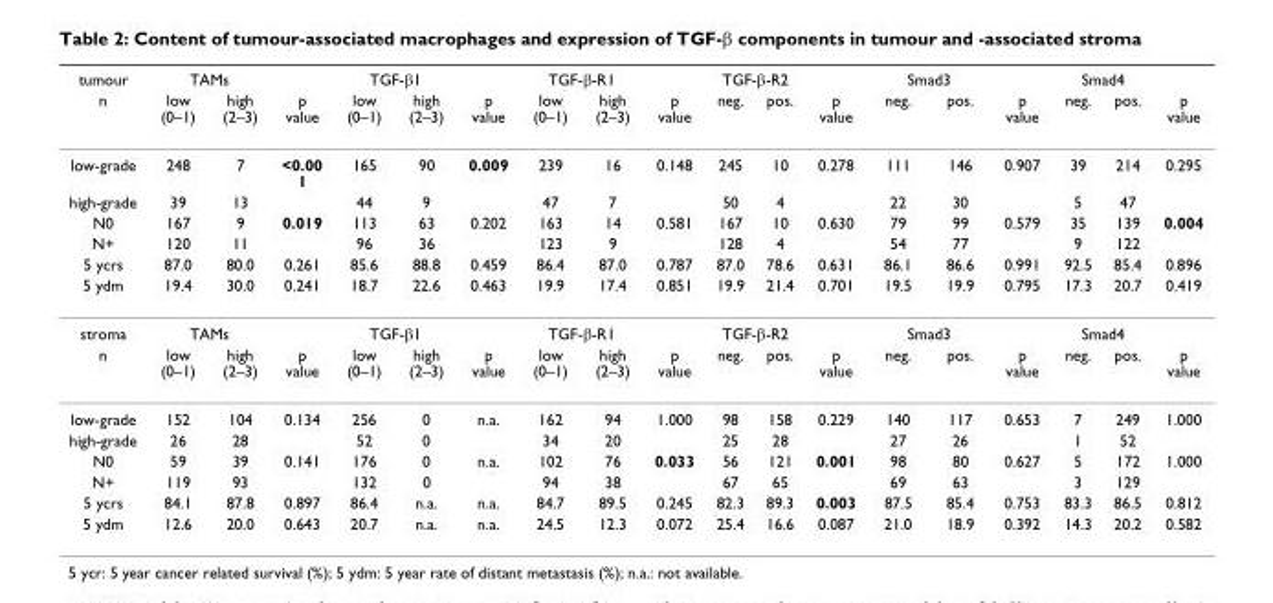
<table><thead><tr><td rowspan="2">tumour n</td><td colspan="2">TAMs</td><td rowspan="2">p value</td><td colspan="2">TGF-β1</td><td rowspan="2">p value</td><td colspan="2">TGF-β-R1</td><td rowspan="2">p value</td><td colspan="2">TGF-β-R2</td><td rowspan="2">p value</td><td colspan="2">Smad3</td><td rowspan="2">p value</td><td colspan="2">Smad4</td><td rowspan="2">p value</td></tr><tr><td>low (0–1)</td><td>high (2–3)</td><td>low (0–1)</td><td>high (2–3)</td><td>low (0–1)</td><td>high (2–3)</td><td>neg.</td><td>pos.</td><td>neg.</td><td>pos.</td><td>neg.</td><td>pos.</td></tr></thead><tbody><tr><td>low-grade</td><td>248</td><td>7</td><td>&lt;0.00 1</td><td>165</td><td>90</td><td>0.009</td><td>239</td><td>16</td><td>0.148</td><td>245</td><td>10</td><td>0.278</td><td>111</td><td>146</td><td>0.907</td><td>39</td><td>214</td><td>0.295</td></tr><tr><td>high-grade</td><td>39</td><td>13</td><td></td><td>44</td><td>9</td><td></td><td>47</td><td>7</td><td></td><td>50</td><td>4</td><td></td><td>22</td><td>30</td><td></td><td>5</td><td>47</td><td></td></tr><tr><td>N0</td><td>167</td><td>9</td><td>0.019</td><td>113</td><td>63</td><td>0.202</td><td>163</td><td>14</td><td>0.581</td><td>167</td><td>10</td><td>0.630</td><td>79</td><td>99</td><td>0.579</td><td>35</td><td>139</td><td>0.004</td></tr><tr><td>N+</td><td>120</td><td>11</td><td></td><td>96</td><td>36</td><td></td><td>123</td><td>9</td><td></td><td>128</td><td>4</td><td></td><td>54</td><td>77</td><td></td><td>9</td><td>122</td><td></td></tr><tr><td>5 ycrs</td><td>87.0</td><td>80.0</td><td>0.261</td><td>85.6</td><td>88.8</td><td>0.459</td><td>86.4</td><td>87.0</td><td>0.787</td><td>87.0</td><td>78.6</td><td>0.631</td><td>86.1</td><td>86.6</td><td>0.991</td><td>92.5</td><td>85.4</td><td>0.896</td></tr><tr><td>5 ydm</td><td>19.4</td><td>30.0</td><td>0.241</td><td>18.7</td><td>22.6</td><td>0.463</td><td>19.9</td><td>17.4</td><td>0.851</td><td>19.9</td><td>21.4</td><td>0.701</td><td>19.5</td><td>19.9</td><td>0.795</td><td>17.3</td><td>20.7</td><td>0.419</td></tr><tr><td>stroma</td><td colspan="2">TAMs</td><td></td><td colspan="2">TGF-β1</td><td></td><td colspan="2">TGF-β-R1</td><td></td><td colspan="2">TGF-β-R2</td><td></td><td colspan="2">Smad3</td><td></td><td colspan="2">Smad4</td><td></td></tr><tr><td>n</td><td>low (0–1)</td><td>high (2–3)</td><td>p value</td><td>low (0–1)</td><td>high (2–3)</td><td>p value</td><td>low (0–1)</td><td>high (2–3)</td><td>p value</td><td>neg.</td><td>pos.</td><td>p value</td><td>neg.</td><td>pos.</td><td>p value</td><td>neg.</td><td>pos.</td><td>p value</td></tr><tr><td>low-grade</td><td>152</td><td>104</td><td>0.134</td><td>256</td><td>0</td><td>n.a.</td><td>162</td><td>94</td><td>1.000</td><td>98</td><td>158</td><td>0.229</td><td>140</td><td>117</td><td>0.653</td><td>7</td><td>249</td><td>1.000</td></tr><tr><td>high-grade</td><td>26</td><td>28</td><td></td><td>52</td><td>0</td><td></td><td>34</td><td>20</td><td></td><td>25</td><td>28</td><td></td><td>27</td><td>26</td><td></td><td>1</td><td>52</td><td></td></tr><tr><td>N0</td><td>59</td><td>39</td><td>0.141</td><td>176</td><td>0</td><td>n.a.</td><td>102</td><td>76</td><td>0.033</td><td>56</td><td>121</td><td>0.001</td><td>98</td><td>80</td><td>0.627</td><td>5</td><td>172</td><td>1.000</td></tr><tr><td>N+</td><td>119</td><td>93</td><td></td><td>132</td><td>0</td><td></td><td>94</td><td>38</td><td></td><td>67</td><td>65</td><td></td><td>69</td><td>63</td><td></td><td>3</td><td>129</td><td></td></tr><tr><td>5 ycrs</td><td>84.1</td><td>87.8</td><td>0.897</td><td>86.4</td><td>n.a.</td><td>n.a.</td><td>84.7</td><td>89.5</td><td>0.245</td><td>82.3</td><td>89.3</td><td>0.003</td><td>87.5</td><td>85.4</td><td>0.753</td><td>83.3</td><td>86.5</td><td>0.812</td></tr><tr><td>5 ydm</td><td>12.6</td><td>20.0</td><td>0.643</td><td>20.7</td><td>n.a.</td><td>n.a.</td><td>24.5</td><td>12.3</td><td>0.072</td><td>25.4</td><td>16.6</td><td>0.087</td><td>21.0</td><td>18.9</td><td>0.392</td><td>14.3</td><td>20.2</td><td>0.582</td></tr></tbody></table>